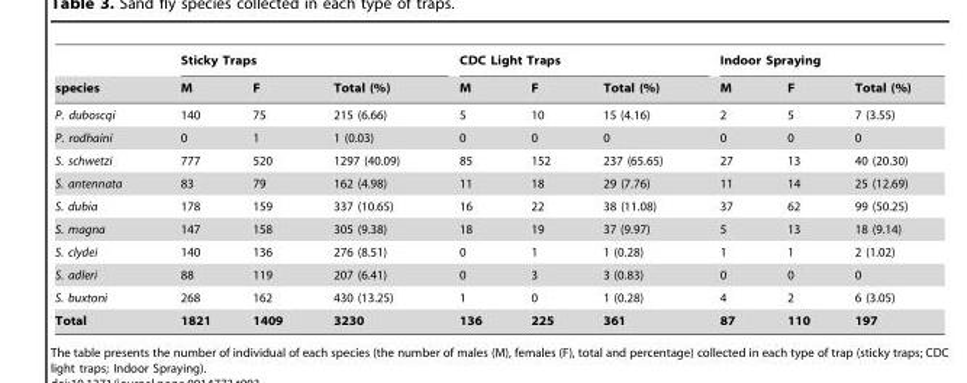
<table><thead><tr><td rowspan="2">species</td><td colspan="3">Sticky Traps</td><td colspan="3">CDC Light Traps</td><td colspan="3">Indoor Spraying</td></tr><tr><td>M</td><td>F</td><td>Total (%)</td><td>M</td><td>F</td><td>Total (%)</td><td>M</td><td>F</td><td>Total (%)</td></tr></thead><tbody><tr><td>P. duboscqi</td><td>140</td><td>75</td><td>215 (6.66)</td><td>5</td><td>10</td><td>15 (4.16)</td><td>2</td><td>5</td><td>7 (3.55)</td></tr><tr><td>P. rodhaini</td><td>0</td><td>1</td><td>1 (0.03)</td><td>0</td><td>0</td><td>0</td><td>0</td><td>0</td><td>0</td></tr><tr><td>S. schwetzi</td><td>777</td><td>520</td><td>1297 (40.09)</td><td>85</td><td>152</td><td>237 (65.65)</td><td>27</td><td>13</td><td>40 (20.30)</td></tr><tr><td>S. antennata</td><td>83</td><td>79</td><td>162 (4.98)</td><td>11</td><td>18</td><td>29 (7.76)</td><td>11</td><td>14</td><td>25 (12.69)</td></tr><tr><td>S. dubia</td><td>178</td><td>159</td><td>337 (10.65)</td><td>16</td><td>22</td><td>38 (11.08)</td><td>37</td><td>62</td><td>99 (50.25)</td></tr><tr><td>S. magna</td><td>147</td><td>158</td><td>305 (9.38)</td><td>18</td><td>19</td><td>37 (9.97)</td><td>5</td><td>13</td><td>18 (9.14)</td></tr><tr><td>S. clydei</td><td>140</td><td>136</td><td>276 (8.51)</td><td>0</td><td>1</td><td>1 (0.28)</td><td>1</td><td>1</td><td>2 (1.02)</td></tr><tr><td>S. adleri</td><td>88</td><td>119</td><td>207 (6.41)</td><td>0</td><td>3</td><td>3 (0.83)</td><td>0</td><td>0</td><td>0</td></tr><tr><td>S. buxtoni</td><td>268</td><td>162</td><td>430 (13.25)</td><td>1</td><td>0</td><td>1 (0.28)</td><td>4</td><td>2</td><td>6 (3.05)</td></tr><tr><td>Total</td><td>1821</td><td>1409</td><td>3230</td><td>136</td><td>225</td><td>361</td><td>87</td><td>110</td><td>197</td></tr></tbody></table>